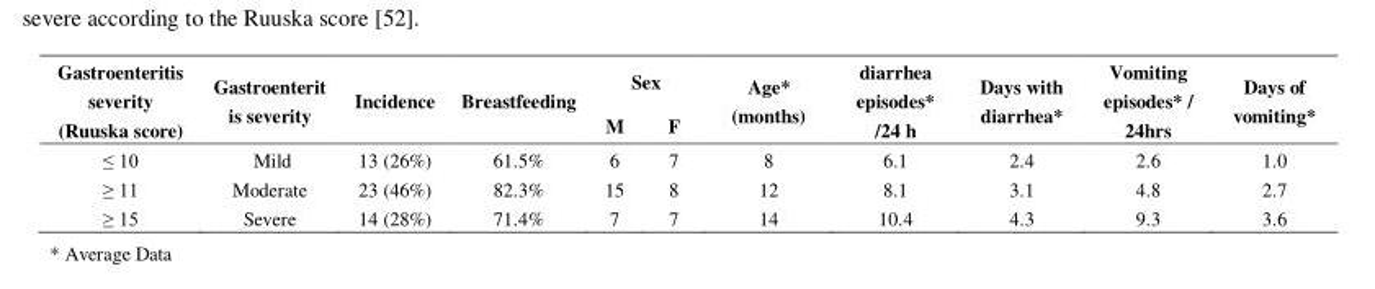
<table><thead><tr><td rowspan="2">Gastroenteritis severity (Ruuska score)</td><td rowspan="2">Gastroenterit is severity</td><td rowspan="2">Incidence</td><td rowspan="2">Breastfeeding</td><td colspan="2">Sex</td><td rowspan="2">Age* (months)</td><td rowspan="2">diarrhea episodes* /24 h</td><td rowspan="2">Days with diarrhea*</td><td rowspan="2">Vomiting episodes* / 24hrs</td><td rowspan="2">Days of vomiting*</td></tr><tr><td>M</td><td>F</td></tr></thead><tbody><tr><td>≤ 10</td><td>Mild</td><td>13 (26%)</td><td>61.5%</td><td>6</td><td>7</td><td>8</td><td>6.1</td><td>2.4</td><td>2.6</td><td>1.0</td></tr><tr><td>≥ 11</td><td>Moderate</td><td>23 (46%)</td><td>82.3%</td><td>15</td><td>8</td><td>12</td><td>8.1</td><td>3.1</td><td>4.8</td><td>2.7</td></tr><tr><td>≥ 15</td><td>Severe</td><td>14 (28%)</td><td>71.4%</td><td>7</td><td>7</td><td>14</td><td>10.4</td><td>4.3</td><td>9.3</td><td>3.6</td></tr></tbody></table>